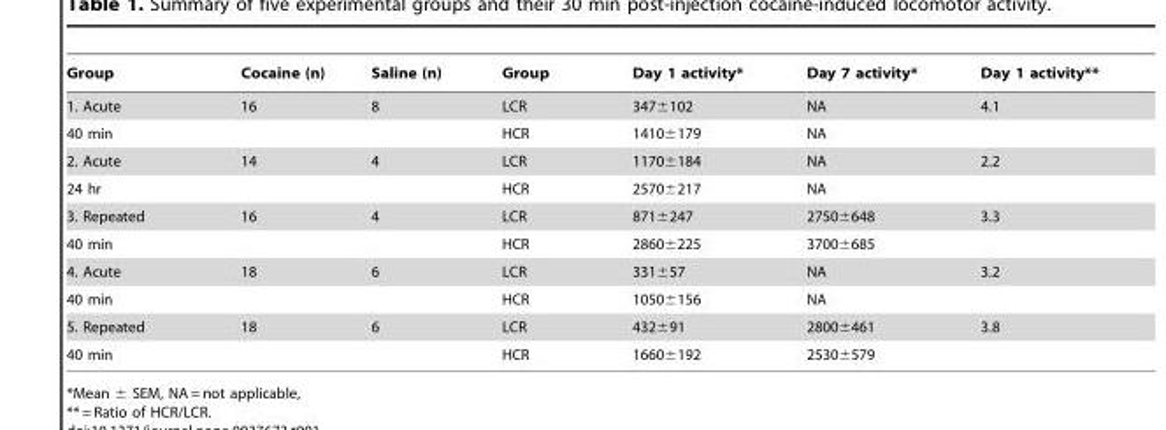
<table><thead><tr><td>Group</td><td>Cocaine (n)</td><td>Saline (n)</td><td>Group</td><td>Day 1 activity*</td><td>Day 7 activity*</td><td>Day 1 activity**</td></tr></thead><tbody><tr><td>1. Acute</td><td>16</td><td>8</td><td>LCR</td><td>347±102</td><td>NA</td><td>4.1</td></tr><tr><td>40 min</td><td></td><td></td><td>HCR</td><td>1410±179</td><td>NA</td><td></td></tr><tr><td>2. Acute</td><td>14</td><td>4</td><td>LCR</td><td>1170±184</td><td>NA</td><td>2.2</td></tr><tr><td>24 hr</td><td></td><td></td><td>HCR</td><td>2570±217</td><td>NA</td><td></td></tr><tr><td>3. Repeated</td><td>16</td><td>4</td><td>LCR</td><td>871±247</td><td>2750±648</td><td>3.3</td></tr><tr><td>40 min</td><td></td><td></td><td>HCR</td><td>2860±225</td><td>3700±685</td><td></td></tr><tr><td>4. Acute</td><td>18</td><td>6</td><td>LCR</td><td>331±57</td><td>NA</td><td>3.2</td></tr><tr><td>40 min</td><td></td><td></td><td>HCR</td><td>1050±156</td><td>NA</td><td></td></tr><tr><td>5. Repeated</td><td>18</td><td>6</td><td>LCR</td><td>432±91</td><td>2800±461</td><td>3.8</td></tr><tr><td>40 min</td><td></td><td></td><td>HCR</td><td>1660±192</td><td>2530±579</td><td></td></tr></tbody></table>